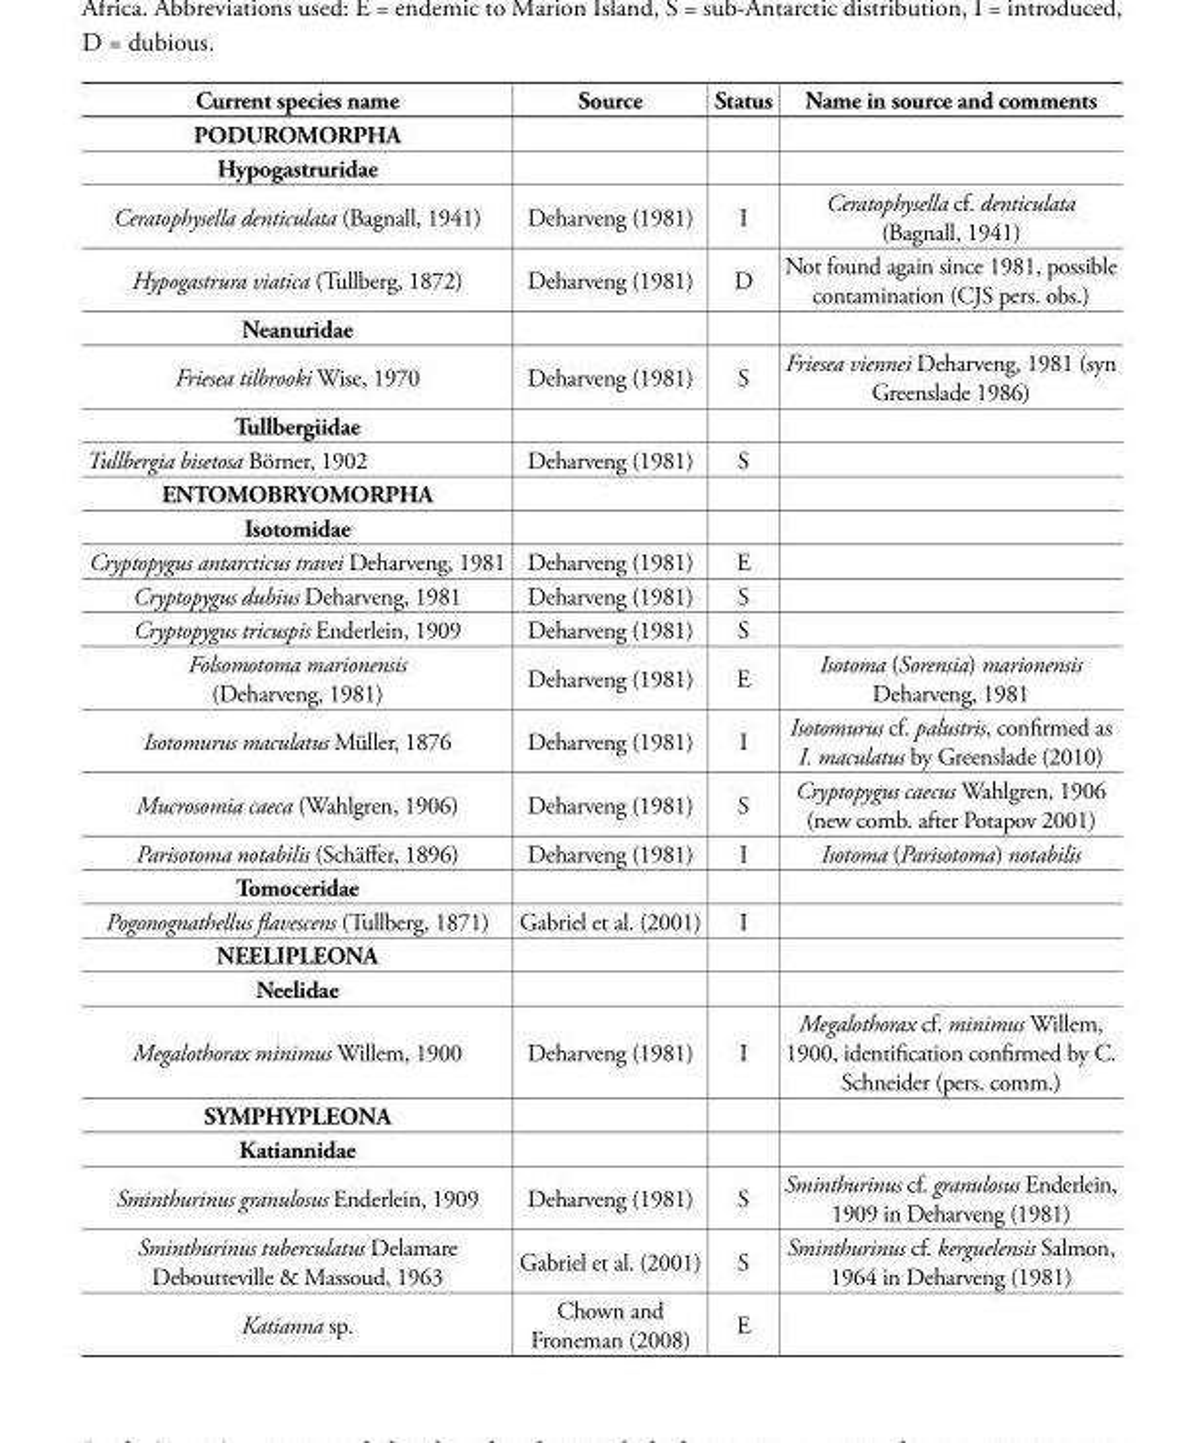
<table><thead><tr><td>Current species name</td><td>Source</td><td>Status</td><td>Name in source and comments</td></tr></thead><tbody><tr><td colspan="4">PODUROMORPHA</td></tr><tr><td colspan="4">Hypogastruridae</td></tr><tr><td>Ceratophysella denticulata (Bagnall, 1941)</td><td>Deharveng (1981)</td><td>I</td><td>Ceratophysella cf. denticulata (Bagnall, 1941)</td></tr><tr><td>Hypogastrura viatica (Tullberg, 1872)</td><td>Deharveng (1981)</td><td>D</td><td>Not found again since 1981, possible contamination (CJS pers. obs.)</td></tr><tr><td colspan="4">Neanuridae</td></tr><tr><td>Friesea tilbrooki Wise, 1970</td><td>Deharveng (1981)</td><td>S</td><td>Friesea viennei Deharveng, 1981 (syn Greenslade 1986)</td></tr><tr><td colspan="4">Tullbergiidae</td></tr><tr><td>Tullbergia bisetosa Börner, 1902</td><td>Deharveng (1981)</td><td>S</td><td></td></tr><tr><td colspan="4">ENTOMOBRYOMORPHA</td></tr><tr><td colspan="4">Isotomidae</td></tr><tr><td>Cryptopygus antarcticus travei Deharveng, 1981</td><td>Deharveng (1981)</td><td>E</td><td></td></tr><tr><td>Cryptopygus dubius Deharveng, 1981</td><td>Deharveng (1981)</td><td>S</td><td></td></tr><tr><td>Cryptopygus tricuspis Enderlein, 1909</td><td>Deharveng (1981)</td><td>S</td><td></td></tr><tr><td>Folsomotoma marionensis (Deharveng, 1981)</td><td>Deharveng (1981)</td><td>E</td><td>Isotoma (Sorensia) marionensis Deharveng, 1981</td></tr><tr><td>Isotomurus maculatus Müller, 1876</td><td>Deharveng (1981)</td><td>I</td><td>Isotomurus cf. palustris, confirmed as I. maculatus by Greenslade (2010)</td></tr><tr><td>Mucrosomia caeca (Wahlgren, 1906)</td><td>Deharveng (1981)</td><td>S</td><td>Cryptopygus caecus Wahlgren, 1906 (new comb. after Potapov 2001)</td></tr><tr><td>Parisotoma notabilis (Schäffer, 1896)</td><td>Deharveng (1981)</td><td>I</td><td>Isotoma (Parisotoma) notabilis</td></tr><tr><td colspan="4">Tomoceridae</td></tr><tr><td>Pogonognathellus flavescens (Tullberg, 1871)</td><td>Gabriel et al. (2001)</td><td>I</td><td></td></tr><tr><td colspan="4">NEELIPLEONA</td></tr><tr><td colspan="4">Neelidae</td></tr><tr><td>Megalothorax minimus Willem, 1900</td><td>Deharveng (1981)</td><td>I</td><td>Megalothorax cf. minimus Willem, 1900, identification confirmed by C. Schneider (pers. comm.)</td></tr><tr><td colspan="4">SYMPHYPLEONA</td></tr><tr><td colspan="4">Katiannidae</td></tr><tr><td>Sminthurinus granulosus Enderlein, 1909</td><td>Deharveng (1981)</td><td>S</td><td>Sminthurinus cf. granulosus Enderlein, 1909 in Deharveng (1981)</td></tr><tr><td>Sminthurinus tuberculatus Delamare Deboutteville &amp; Massoud, 1963</td><td>Gabriel et al. (2001)</td><td>S</td><td>Sminthurinus cf. kerguelensis Salmon, 1964 in Deharveng (1981)</td></tr><tr><td>Katianna sp.</td><td>Chown and Froneman (2008)</td><td>E</td><td></td></tr></tbody></table>